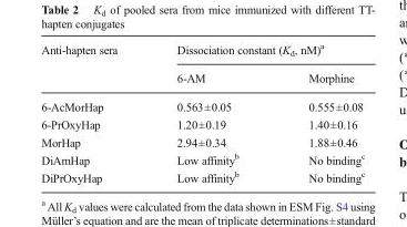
<table><thead><tr><td rowspan="2">Anti-hapten sera</td><td colspan="2">Dissociation constant (K<sub>d</sub>, nM)<sup>a</sup></td></tr><tr><td>6-AM</td><td>Morphine</td></tr></thead><tbody><tr><td>6-AcMorHap</td><td>0.563±0.05</td><td>0.555±0.08</td></tr><tr><td>6-PrOxyHap</td><td>1.20±0.19</td><td>1.40±0.16</td></tr><tr><td>MorHap</td><td>2.94±0.34</td><td>1.88±0.46</td></tr><tr><td>DiAmHap</td><td>Low affinity<sup>b</sup></td><td>No binding<sup>c</sup></td></tr><tr><td>DiPrOxyHap</td><td>Low affinity<sup>b</sup></td><td>No binding<sup>c</sup></td></tr></tbody></table>